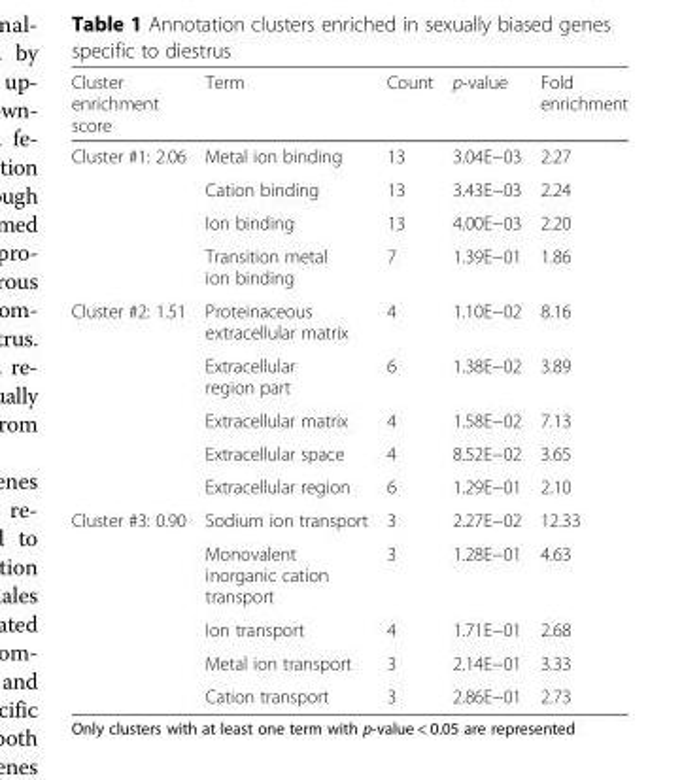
<table><thead><tr><td>Cluster enrichment score</td><td>Term</td><td>Count</td><td>p-value</td><td>Fold enrichment</td></tr></thead><tbody><tr><td rowspan="4">Cluster #1: 2.06</td><td>Metal ion binding</td><td>13</td><td>3.04E−03</td><td>2.27</td></tr><tr><td>Cation binding</td><td>13</td><td>3.43E−03</td><td>2.24</td></tr><tr><td>Ion binding</td><td>13</td><td>4.00E−03</td><td>2.20</td></tr><tr><td>Transition metal ion binding</td><td>7</td><td>1.39E−01</td><td>1.86</td></tr><tr><td rowspan="5">Cluster #2: 1.51</td><td>Proteinaceous extracellular matrix</td><td>4</td><td>1.10E−02</td><td>8.16</td></tr><tr><td>Extracellular region part</td><td>6</td><td>1.38E−02</td><td>3.89</td></tr><tr><td>Extracellular matrix</td><td>4</td><td>1.58E−02</td><td>7.13</td></tr><tr><td>Extracellular space</td><td>4</td><td>8.52E−02</td><td>3.65</td></tr><tr><td>Extracellular region</td><td>6</td><td>1.29E−01</td><td>2.10</td></tr><tr><td rowspan="5">Cluster #3: 0.90</td><td>Sodium ion transport</td><td>3</td><td>2.27E−02</td><td>12.33</td></tr><tr><td>Monovalent inorganic cation transport</td><td>3</td><td>1.28E−01</td><td>4.63</td></tr><tr><td>Ion transport</td><td>4</td><td>1.71E−01</td><td>2.68</td></tr><tr><td>Metal ion transport</td><td>3</td><td>2.14E−01</td><td>3.33</td></tr><tr><td>Cation transport</td><td>3</td><td>2.86E−01</td><td>2.73</td></tr></tbody></table>